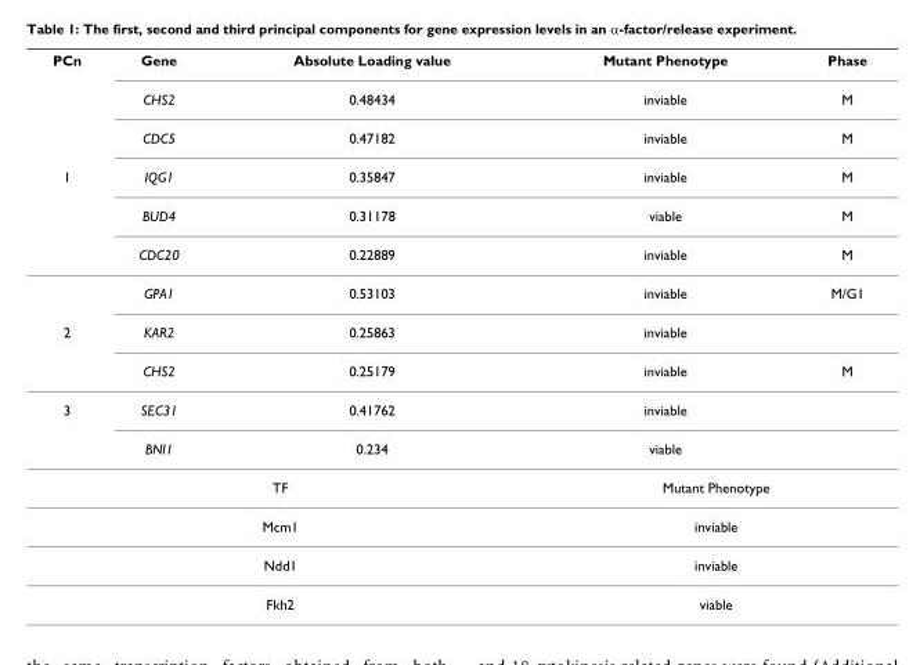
<table><thead><tr><td rowspan="6">PCn 1</td><td rowspan="6">Gene CHS2 CDC5 IQG1 BUD4 CDC20</td><td rowspan="6">Absolute Loading value 0.48434 0.47182 0.35847 0.31178 0.22889</td><td rowspan="6">Mutant Phenotype inviable inviable inviable viable inviable</td><td rowspan="6">Phase M M M M M</td></tr><tr></tr><tr></tr><tr></tr><tr></tr><tr></tr></thead><tbody><tr><td></td><td>GPA1</td><td>0.53103</td><td>inviable</td><td>M/G1</td></tr><tr><td rowspan="2">2</td><td>KAR2</td><td>0.25863</td><td>inviable</td><td></td></tr><tr><td>CHS2</td><td>0.25179</td><td>inviable</td><td>M</td></tr><tr><td rowspan="2">3</td><td>SEC31</td><td>0.41762</td><td>inviable</td><td></td></tr><tr><td>BNI1</td><td>0.234</td><td>viable</td><td></td></tr><tr><td colspan="3">TF</td><td colspan="2">Mutant Phenotype</td></tr><tr><td colspan="3">Mcm1</td><td colspan="2">inviable</td></tr><tr><td colspan="3">Ndd1</td><td colspan="2">inviable</td></tr><tr><td colspan="3">Fkh2</td><td colspan="2">viable</td></tr></tbody></table>